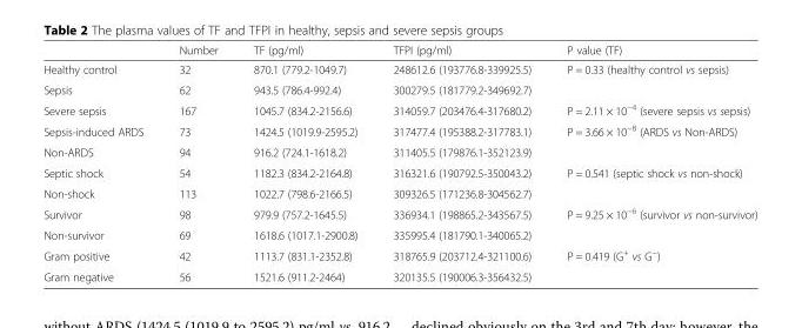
<table><thead><tr><td></td><td>Number</td><td>TF (pg/ml)</td><td>TFPI (pg/ml)</td><td>P value (TF)</td></tr></thead><tbody><tr><td>Healthy control</td><td>32</td><td>870.1 (779.2-1049.7)</td><td>248612.6 (193776.8-339925.5)</td><td>P = 0.33 (healthy control vs sepsis)</td></tr><tr><td>Sepsis</td><td>62</td><td>943.5 (786.4-992.4)</td><td>300279.5 (181779.2-349692.7)</td><td></td></tr><tr><td>Severe sepsis</td><td>167</td><td>1045.7 (834.2-2156.6)</td><td>314059.7 (203476.4-317680.2)</td><td>P = 2.11 × 10<sup>−4</sup> (severe sepsis vs sepsis)</td></tr><tr><td>Sepsis-induced ARDS</td><td>73</td><td>1424.5 (1019.9-2595.2)</td><td>317477.4 (195388.2-317783.1)</td><td>P = 3.66 × 10<sup>−8</sup> (ARDS vs Non-ARDS)</td></tr><tr><td>Non-ARDS</td><td>94</td><td>916.2 (724.1-1618.2)</td><td>311405.5 (179876.1-352123.9)</td><td></td></tr><tr><td>Septic shock</td><td>54</td><td>1182.3 (834.2-2164.8)</td><td>316321.6 (190792.5-350043.2)</td><td>P = 0.541 (septic shock vs non-shock)</td></tr><tr><td>Non-shock</td><td>113</td><td>1022.7 (798.6-2166.5)</td><td>309326.5 (171236.8-304562.7)</td><td></td></tr><tr><td>Survivor</td><td>98</td><td>979.9 (757.2-1645.5)</td><td>336934.1 (198865.2-343567.5)</td><td>P = 9.25 × 10<sup>−6</sup> (survivor vs non-survivor)</td></tr><tr><td>Non-survivor</td><td>69</td><td>1618.6 (1017.1-2900.8)</td><td>335995.4 (181790.1-340065.2)</td><td></td></tr><tr><td>Gram positive</td><td>42</td><td>1113.7 (831.1-2352.8)</td><td>318765.9 (203712.4-321100.6)</td><td>P = 0.419 (G<sup>+</sup> vs G<sup>−</sup>)</td></tr><tr><td>Gram negative</td><td>56</td><td>1521.6 (911.2-2464)</td><td>320135.5 (190006.3-356432.5)</td><td></td></tr></tbody></table>